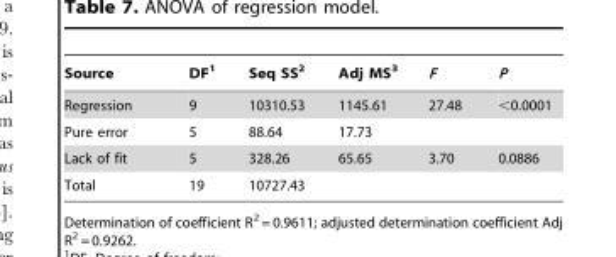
<table><thead><tr><td>Source</td><td>DF<sup>1</sup></td><td>Seq SS<sup>2</sup></td><td>Adj MS<sup>3</sup></td><td>F</td><td>P</td></tr></thead><tbody><tr><td>Regression</td><td>9</td><td>10310.53</td><td>1145.61</td><td>27.48</td><td>&lt;0.0001</td></tr><tr><td>Pure error</td><td>5</td><td>88.64</td><td>17.73</td><td></td><td></td></tr><tr><td>Lack of fit</td><td>5</td><td>328.26</td><td>65.65</td><td>3.70</td><td>0.0886</td></tr><tr><td>Total</td><td>19</td><td>10727.43</td><td></td><td></td><td></td></tr></tbody></table>